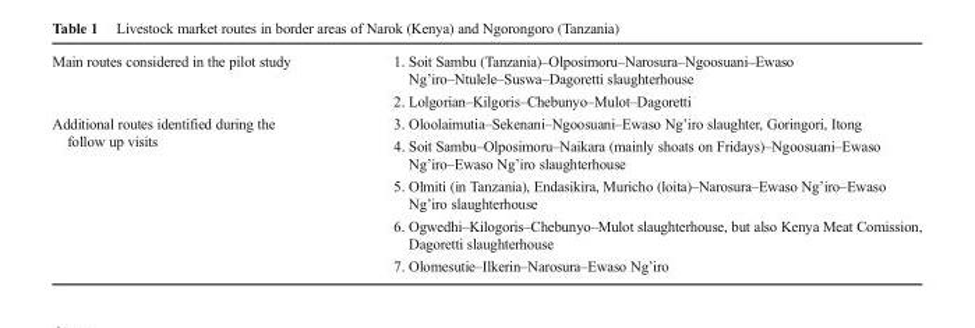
<table><tbody><tr><td rowspan="2">Main routes considered in the pilot study</td><td>1. Soit Sambu (Tanzania)–Olposimoru–Narosura–Ngoosuani–Ewaso Ng’iro–Ntulele–Suswa–Dagoretti slaughterhouse</td></tr><tr><td>2. Lolgorian–Kilgoris–Chebunyo–Mulot–Dagoretti</td></tr><tr><td rowspan="5">Additional routes identified during the follow up visits</td><td>3. Oloolaimutia–Sekenani–Ngoosuani–Ewaso Ng’iro slaughter, Goringori, Itong</td></tr><tr><td>4. Soit Sambu–Olposimoru–Naikara (mainly shoats on Fridays)–Ngoosuani–Ewaso Ng’iro–Ewaso Ng’iro slaughterhouse</td></tr><tr><td>5. Olmiti (in Tanzania), Endasikira, Muricho (loita)–Narosura–Ewaso Ng’iro–Ewaso Ng’iro slaughterhouse</td></tr><tr><td>6. Ogwedhi–Kilogoris–Chebunyo–Mulot slaughterhouse, but also Kenya Meat Comission, Dagoretti slaughterhouse</td></tr><tr><td>7. Olomesutie–Ilkerin–Narosura–Ewaso Ng’iro</td></tr></tbody></table>